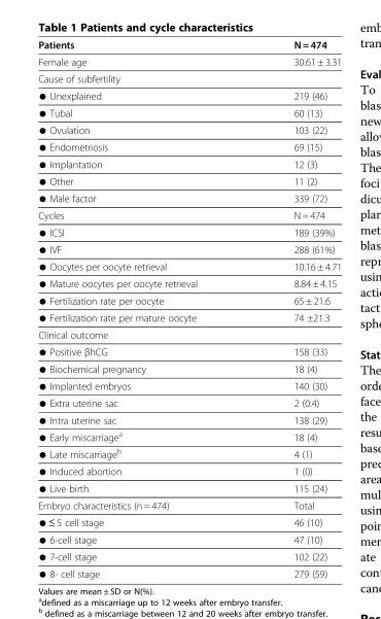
<table><thead><tr><td>Patients</td><td>N = 474</td></tr></thead><tbody><tr><td>Female age</td><td>30.61 ± 3.31</td></tr><tr><td colspan="2">Cause of subfertility</td></tr><tr><td>● Unexplained</td><td>219 (46)</td></tr><tr><td>● Tubal</td><td>60 (13)</td></tr><tr><td>● Ovulation</td><td>103 (22)</td></tr><tr><td>● Endometriosis</td><td>69 (15)</td></tr><tr><td>● Implantation</td><td>12 (3)</td></tr><tr><td>● Other</td><td>11 (2)</td></tr><tr><td>● Male factor</td><td>339 (72)</td></tr><tr><td>Cycles</td><td>N = 474</td></tr><tr><td>● ICSI</td><td>189 (39%)</td></tr><tr><td>● IVF</td><td>288 (61%)</td></tr><tr><td>● Oocytes per oocyte retrieval</td><td>10.16 ± 4.71</td></tr><tr><td>● Mature oocytes per oocyte retrieval</td><td>8.84 ± 4.15</td></tr><tr><td>● Fertilization rate per oocyte</td><td>65 ± 21.6</td></tr><tr><td>● Fertilization rate per mature oocyte</td><td>74 ±21.3</td></tr><tr><td colspan="2">Clinical outcome</td></tr><tr><td>● Positive βhCG</td><td>158 (33)</td></tr><tr><td>● Biochemical pregnancy</td><td>18 (4)</td></tr><tr><td>● Implanted embryos</td><td>140 (30)</td></tr><tr><td>● Extra uterine sac</td><td>2 (0.4)</td></tr><tr><td>● Intra uterine sac</td><td>138 (29)</td></tr><tr><td>● Early miscarriage<sup>a</sup></td><td>18 (4)</td></tr><tr><td>● Late miscarriage<sup>b</sup></td><td>4 (1)</td></tr><tr><td>● Induced abortion</td><td>1 (0)</td></tr><tr><td>● Live birth</td><td>115 (24)</td></tr><tr><td>Embryo characteristics (n = 474)</td><td>Total</td></tr><tr><td>● ≤ 5 cell stage</td><td>46 (10)</td></tr><tr><td>● 6-cell stage</td><td>47 (10)</td></tr><tr><td>● 7-cell stage</td><td>102 (22)</td></tr><tr><td>● 8- cell stage</td><td>279 (59)</td></tr></tbody></table>